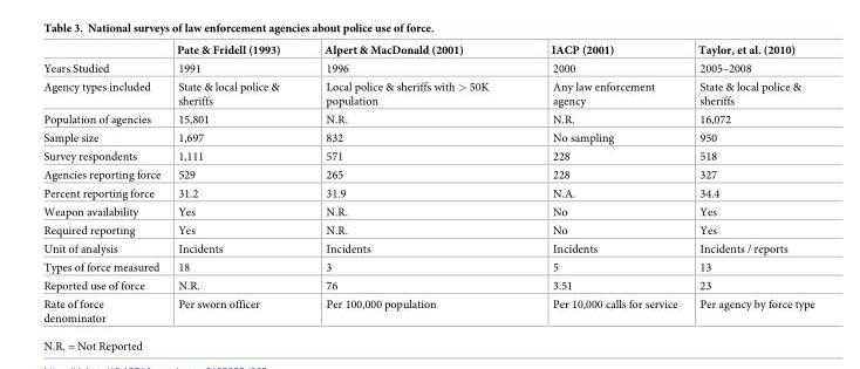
<table><thead><tr><td></td><td>Pate &amp; Fridell (1993)</td><td>Alpert &amp; MacDonald (2001)</td><td>IACP (2001)</td><td>Taylor, et al. (2010)</td></tr></thead><tbody><tr><td>Years Studied</td><td>1991</td><td>1996</td><td>2000</td><td>2005–2008</td></tr><tr><td>Agency types included</td><td>State &amp; local police &amp; sheriffs</td><td>Local police &amp; sheriffs with &gt; 50K population</td><td>Any law enforcement agency</td><td>State &amp; local police &amp; sheriffs</td></tr><tr><td>Population of agencies</td><td>15,801</td><td>N.R.</td><td>N.R.</td><td>16,072</td></tr><tr><td>Sample size</td><td>1,697</td><td>832</td><td>No sampling</td><td>950</td></tr><tr><td>Survey respondents</td><td>1,111</td><td>571</td><td>228</td><td>518</td></tr><tr><td>Agencies reporting force</td><td>529</td><td>265</td><td>228</td><td>327</td></tr><tr><td>Percent reporting force</td><td>31.2</td><td>31.9</td><td>N.A.</td><td>34.4</td></tr><tr><td>Weapon availability</td><td>Yes</td><td>N.R.</td><td>No</td><td>Yes</td></tr><tr><td>Required reporting</td><td>Yes</td><td>N.R.</td><td>No</td><td>Yes</td></tr><tr><td>Unit of analysis</td><td>Incidents</td><td>Incidents</td><td>Incidents</td><td>Incidents / reports</td></tr><tr><td>Types of force measured</td><td>18</td><td>3</td><td>5</td><td>13</td></tr><tr><td>Reported use of force</td><td>N.R.</td><td>76</td><td>3.51</td><td>23</td></tr><tr><td>Rate of force denominator</td><td>Per sworn officer</td><td>Per 100,000 population</td><td>Per 10,000 calls for service</td><td>Per agency by force type</td></tr></tbody></table>